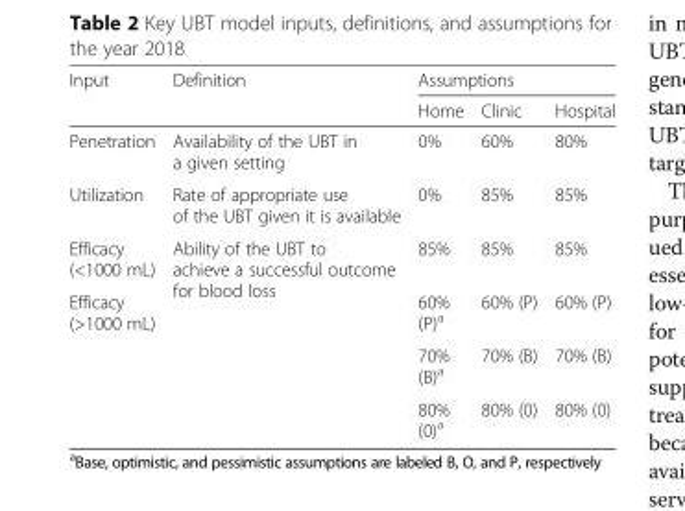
<table><thead><tr><td rowspan="2">Input</td><td rowspan="2">Definition</td><td colspan="3">Assumptions</td></tr><tr><td>Home</td><td>Clinic</td><td>Hospital</td></tr></thead><tbody><tr><td>Penetration</td><td>Availability of the UBT in a given setting</td><td>0%</td><td>60%</td><td>80%</td></tr><tr><td>Utilization</td><td>Rate of appropriate use of the UBT given it is available</td><td>0%</td><td>85%</td><td>85%</td></tr><tr><td>Efficacy (&lt;1000 mL)</td><td rowspan="4">Ability of the UBT to achieve a successful outcome for blood loss</td><td>85%</td><td>85%</td><td>85%</td></tr><tr><td rowspan="3">Efficacy (&gt;1000 mL)</td><td>60% (P)<sup>a</sup></td><td>60% (P)</td><td>60% (P)</td></tr><tr><td>70% (B)<sup>a</sup></td><td>70% (B)</td><td>70% (B)</td></tr><tr><td>80% (0)<sup>a</sup></td><td>80% (0)</td><td>80% (0)</td></tr></tbody></table>